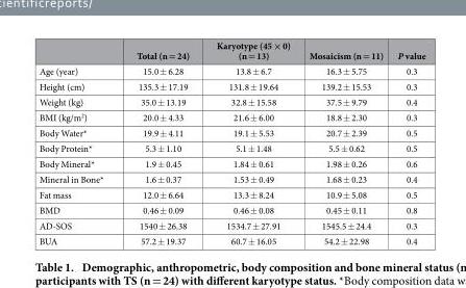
<table><thead><tr><td></td><td>Total (n = 24)</td><td>Karyotype (45 × 0) (n = 13)</td><td>Mosaicism (n = 11)</td><td>P value</td></tr></thead><tbody><tr><td>Age (year)</td><td>15.0 ± 6.28</td><td>13.8 ± 6.7</td><td>16.3 ± 5.75</td><td>0.3</td></tr><tr><td>Height (cm)</td><td>135.3 ± 17.19</td><td>131.8 ± 19.64</td><td>139.2 ± 15.53</td><td>0.3</td></tr><tr><td>Weight (kg)</td><td>35.0 ± 13.19</td><td>32.8 ± 15.58</td><td>37.5 ± 9.79</td><td>0.4</td></tr><tr><td>BMI (kg/m<sup>2</sup>)</td><td>20.0 ± 4.33</td><td>21.6 ± 6.00</td><td>18.8 ± 2.30</td><td>0.3</td></tr><tr><td>Body Water*</td><td>19.9 ± 4.11</td><td>19.1 ± 5.53</td><td>20.7 ± 2.39</td><td>0.5</td></tr><tr><td>Body Protein*</td><td>5.3 ± 1.10</td><td>5.1 ± 1.48</td><td>5.5 ± 0.62</td><td>0.5</td></tr><tr><td>Body Mineral*</td><td>1.9 ± 0.45</td><td>1.84 ± 0.61</td><td>1.98 ± 0.26</td><td>0.6</td></tr><tr><td>Mineral in Bone*</td><td>1.6 ± 0.37</td><td>1.53 ± 0.49</td><td>1.68 ± 0.23</td><td>0.4</td></tr><tr><td>Fat mass</td><td>12.0 ± 6.64</td><td>13.3 ± 8.24</td><td>10.9 ± 5.08</td><td>0.5</td></tr><tr><td>BMD</td><td>0.46 ± 0.09</td><td>0.46 ± 0.08</td><td>0.45 ± 0.11</td><td>0.8</td></tr><tr><td>AD-SOS</td><td>1540 ± 26.38</td><td>1534.7 ± 27.91</td><td>1545.5 ± 24.4</td><td>0.3</td></tr><tr><td>BUA</td><td>57.2 ± 19.37</td><td>60.7 ± 16.05</td><td>54.2 ± 22.98</td><td>0.4</td></tr></tbody></table>